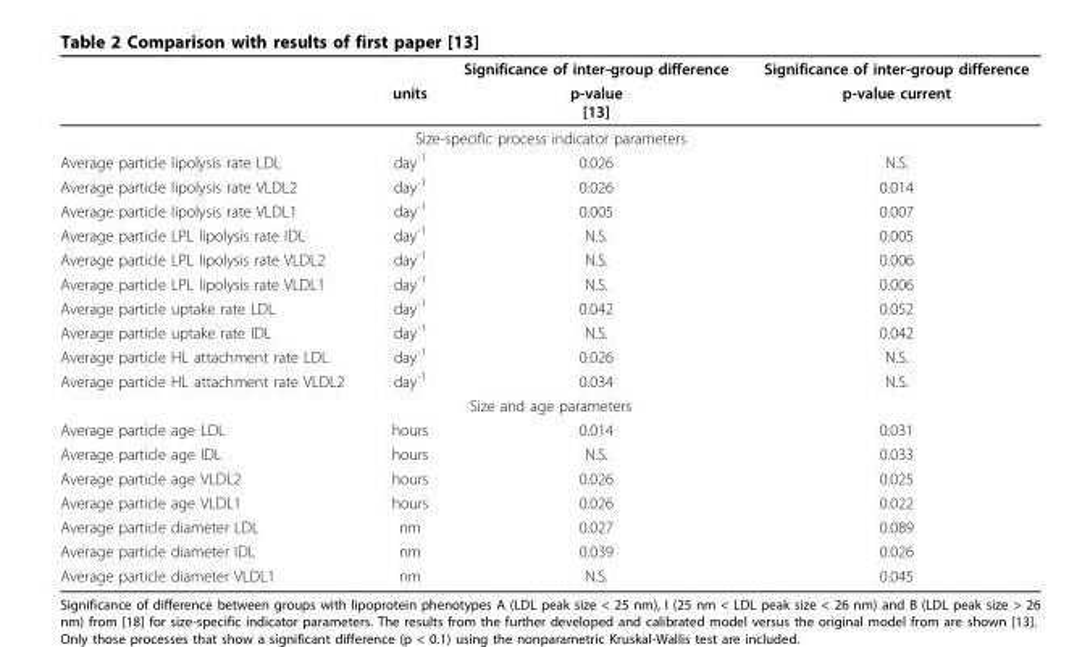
<table><thead><tr><td rowspan="2"></td><td rowspan="2">units</td><td rowspan="2">Significance of inter-group difference p-value [13]</td><td rowspan="2">Significance of inter-group difference p-value current</td></tr><tr></tr></thead><tbody><tr><td colspan="4">Size-specific process indicator parameters</td></tr><tr><td>Average particle lipolysis rate LDL</td><td>day<sup>-1</sup></td><td>0.026</td><td>N.S.</td></tr><tr><td>Average particle lipolysis rate VLDL2</td><td>day<sup>-1</sup></td><td>0.026</td><td>0.014</td></tr><tr><td>Average particle lipolysis rate VLDL1</td><td>day<sup>-1</sup></td><td>0.005</td><td>0.007</td></tr><tr><td>Average particle LPL lipolysis rate IDL</td><td>day<sup>-1</sup></td><td>N.S.</td><td>0.005</td></tr><tr><td>Average particle LPL lipolysis rate VLDL2</td><td>day<sup>-1</sup></td><td>N.S.</td><td>0.006</td></tr><tr><td>Average particle LPL lipolysis rate VLDL1</td><td>day<sup>-1</sup></td><td>N.S.</td><td>0.006</td></tr><tr><td>Average particle uptake rate LDL</td><td>day<sup>-1</sup></td><td>0.042</td><td>0.052</td></tr><tr><td>Average particle uptake rate IDL</td><td>day<sup>-1</sup></td><td>N.S.</td><td>0.042</td></tr><tr><td>Average particle HL attachment rate LDL</td><td>day<sup>-1</sup></td><td>0.026</td><td>N.S.</td></tr><tr><td>Average particle HL attachment rate VLDL2</td><td>day<sup>-1</sup></td><td>0.034</td><td>N.S.</td></tr><tr><td colspan="4">Size and age parameters</td></tr><tr><td>Average particle age LDL</td><td>hours</td><td>0.014</td><td>0.031</td></tr><tr><td>Average particle age IDL</td><td>hours</td><td>N.S.</td><td>0.033</td></tr><tr><td>Average particle age VLDL2</td><td>hours</td><td>0.026</td><td>0.025</td></tr><tr><td>Average particle age VLDL1</td><td>hours</td><td>0.026</td><td>0.022</td></tr><tr><td>Average particle diameter LDL</td><td>nm</td><td>0.027</td><td>0.089</td></tr><tr><td>Average particle diameter IDL</td><td>nm</td><td>0.039</td><td>0.026</td></tr><tr><td>Average particle diameter VLDL1</td><td>nm</td><td>N.S.</td><td>0.045</td></tr></tbody></table>